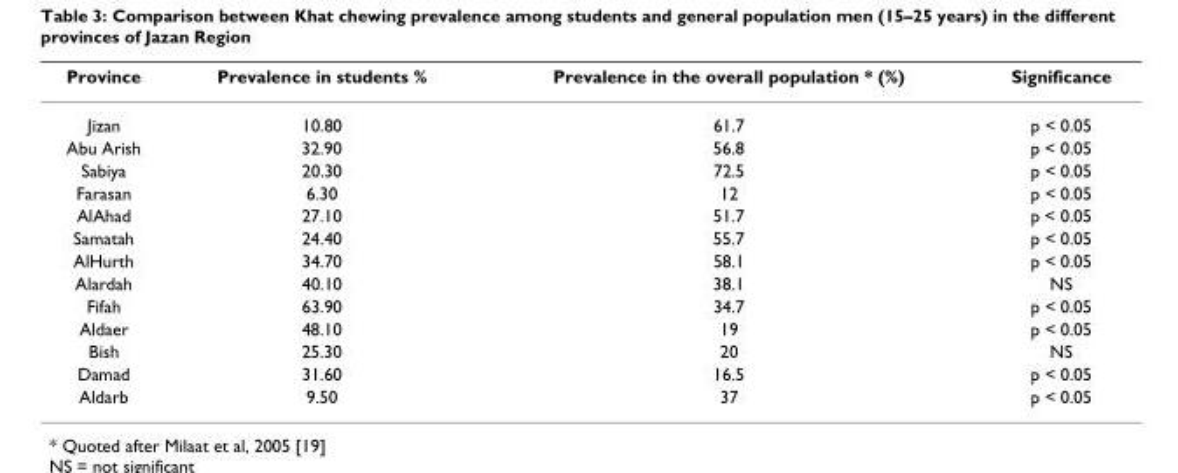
<table><thead><tr><td>Province</td><td>Prevalence in students %</td><td>Prevalence in the overall population * (%)</td><td>Significance</td></tr></thead><tbody><tr><td>Jizan</td><td>10.80</td><td>61.7</td><td>p &lt; 0.05</td></tr><tr><td>Abu Arish</td><td>32.90</td><td>56.8</td><td>p &lt; 0.05</td></tr><tr><td>Sabiya</td><td>20.30</td><td>72.5</td><td>p &lt; 0.05</td></tr><tr><td>Farasan</td><td>6.30</td><td>12</td><td>p &lt; 0.05</td></tr><tr><td>AlAhad</td><td>27.10</td><td>51.7</td><td>p &lt; 0.05</td></tr><tr><td>Samatah</td><td>24.40</td><td>55.7</td><td>p &lt; 0.05</td></tr><tr><td>AlHurth</td><td>34.70</td><td>58.1</td><td>p &lt; 0.05</td></tr><tr><td>Alardah</td><td>40.10</td><td>38.1</td><td>NS</td></tr><tr><td>Fifah</td><td>63.90</td><td>34.7</td><td>p &lt; 0.05</td></tr><tr><td>Aldaer</td><td>48.10</td><td>19</td><td>p &lt; 0.05</td></tr><tr><td>Bish</td><td>25.30</td><td>20</td><td>NS</td></tr><tr><td>Damad</td><td>31.60</td><td>16.5</td><td>p &lt; 0.05</td></tr><tr><td>Aldarb</td><td>9.50</td><td>37</td><td>p &lt; 0.05</td></tr></tbody></table>